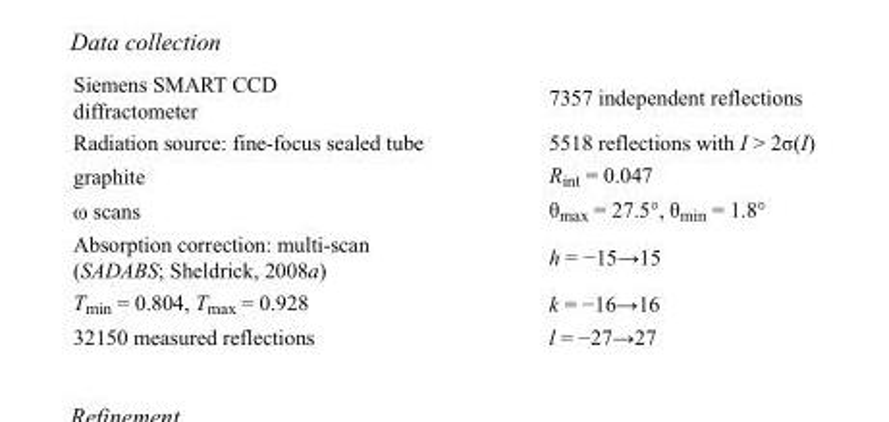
<table><tbody><tr><td>Siemens SMART CCD diffractometer</td><td>7357 independent reflections</td></tr><tr><td>Radiation source: fine-focus sealed tube</td><td>5518 reflections with I &gt; 2σ(I)</td></tr><tr><td>graphite</td><td>R<sub>int</sub> = 0.047</td></tr><tr><td>ω scans</td><td>θ<sub>max</sub> = 27.5°, θ<sub>min</sub> = 1.8°</td></tr><tr><td>Absorption correction: multi-scan (SADABS; Sheldrick, 2008a)</td><td>h = −15→15</td></tr><tr><td>T<sub>min</sub> = 0.804, T<sub>max</sub> = 0.928</td><td>k = −16→16</td></tr><tr><td>32150 measured reflections</td><td>l = −27→27</td></tr></tbody></table>